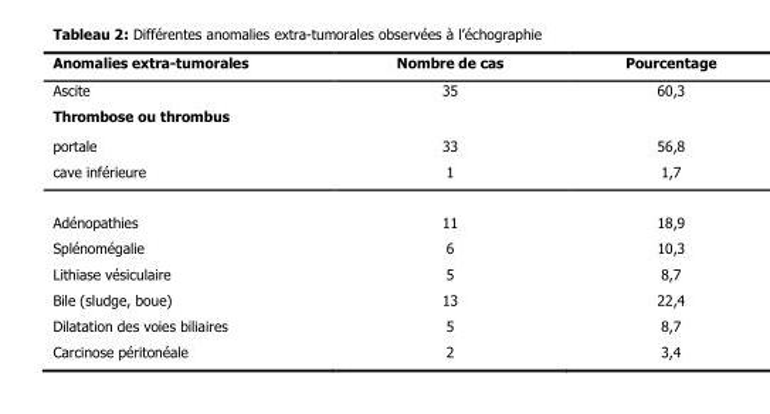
<table><thead><tr><td>Anomalies extra-tumorales</td><td>Nombre de cas</td><td>Pourcentage</td></tr></thead><tbody><tr><td>Ascite</td><td>35</td><td>60,3</td></tr><tr><td colspan="3">Thrombose ou thrombus</td></tr><tr><td>portale</td><td>33</td><td>56,8</td></tr><tr><td>cave inférieure</td><td>1</td><td>1,7</td></tr><tr><td>Adénopathies</td><td>11</td><td>18,9</td></tr><tr><td>Splénomégalie</td><td>6</td><td>10,3</td></tr><tr><td>Lithiase vésiculaire</td><td>5</td><td>8,7</td></tr><tr><td>Bile (sludge, boue)</td><td>13</td><td>22,4</td></tr><tr><td>Dilatation des voies biliaires</td><td>5</td><td>8,7</td></tr><tr><td>Carcinose péritonéale</td><td>2</td><td>3,4</td></tr></tbody></table>